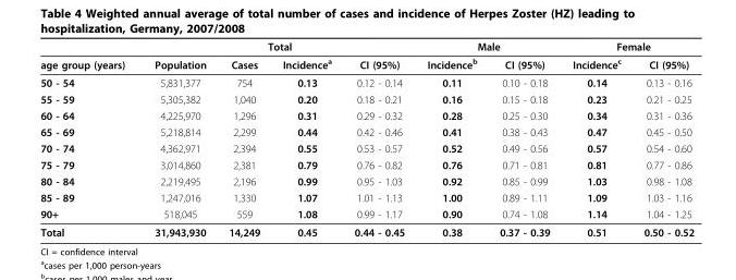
<table><thead><tr><td rowspan="2">age group (years)</td><td colspan="4">Total</td><td colspan="2">Male</td><td colspan="2">Female</td></tr><tr><td>Population</td><td>Cases</td><td>Incidence<sup>a</sup></td><td>CI (95%)</td><td>Incidence<sup>b</sup></td><td>CI (95%)</td><td>Incidence<sup>c</sup></td><td>CI (95%)</td></tr></thead><tbody><tr><td>50 - 54</td><td>5,831,377</td><td>754</td><td>0.13</td><td>0.12 - 0.14</td><td>0.11</td><td>0.10 - 0.18</td><td>0.14</td><td>0.13 - 0.16</td></tr><tr><td>55 - 59</td><td>5,305,382</td><td>1,040</td><td>0.20</td><td>0.18 - 0.21</td><td>0.16</td><td>0.15 - 0.18</td><td>0.23</td><td>0.21 - 0.25</td></tr><tr><td>60 - 64</td><td>4,225,970</td><td>1,296</td><td>0.31</td><td>0.29 - 0.32</td><td>0.28</td><td>0.25 - 0.30</td><td>0.34</td><td>0.31 - 0.36</td></tr><tr><td>65 - 69</td><td>5,218,814</td><td>2,299</td><td>0.44</td><td>0.42 - 0.46</td><td>0.41</td><td>0.38 - 0.43</td><td>0.47</td><td>0.45 - 0.50</td></tr><tr><td>70 - 74</td><td>4,362,971</td><td>2,394</td><td>0.55</td><td>0.53 - 0.57</td><td>0.52</td><td>0.49 - 0.56</td><td>0.57</td><td>0.54 - 0.60</td></tr><tr><td>75 - 79</td><td>3,014,860</td><td>2,381</td><td>0.79</td><td>0.76 - 0.82</td><td>0.76</td><td>0.71 - 0.81</td><td>0.81</td><td>0.77 - 0.86</td></tr><tr><td>80 - 84</td><td>2,219,495</td><td>2,196</td><td>0.99</td><td>0.95 - 1.03</td><td>0.92</td><td>0.85 - 0.99</td><td>1.03</td><td>0.98 - 1.08</td></tr><tr><td>85 - 89</td><td>1,247,016</td><td>1,330</td><td>1.07</td><td>1.01 - 1.13</td><td>1.00</td><td>0.89 - 1.11</td><td>1.09</td><td>1.03 - 1.16</td></tr><tr><td>90+</td><td>518,045</td><td>559</td><td>1.08</td><td>0.99 - 1.17</td><td>0.90</td><td>0.74 - 1.08</td><td>1.14</td><td>1.04 - 1.25</td></tr><tr><td>Total</td><td>31,943,930</td><td>14,249</td><td>0.45</td><td>0.44 - 0.45</td><td>0.38</td><td>0.37 - 0.39</td><td>0.51</td><td>0.50 - 0.52</td></tr></tbody></table>